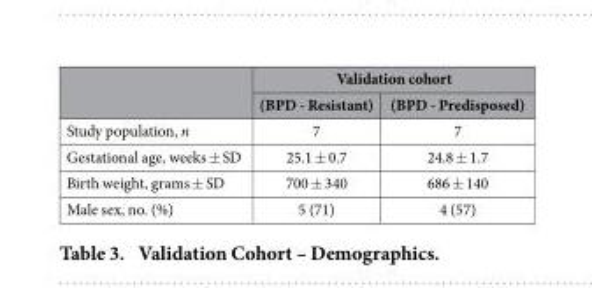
<table><thead><tr><td rowspan="2"></td><td colspan="2">Validation cohort</td></tr><tr><td>(BPD - Resistant)</td><td>(BPD - Predisposed)</td></tr></thead><tbody><tr><td>Study population, n</td><td>7</td><td>7</td></tr><tr><td>Gestational age, weeks ± SD</td><td>25.1 ± 0.7</td><td>24.8 ± 1.7</td></tr><tr><td>Birth weight, grams ± SD</td><td>700 ± 340</td><td>686 ± 140</td></tr><tr><td>Male sex, no. (%)</td><td>5 (71)</td><td>4 (57)</td></tr></tbody></table>